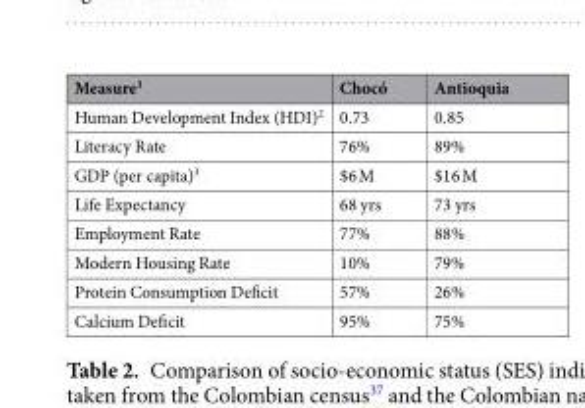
<table><thead><tr><td>Measure<sup>1</sup></td><td>Chocó</td><td>Antioquia</td></tr></thead><tbody><tr><td>Human Development Index (HDI)<sup>2</sup></td><td>0.73</td><td>0.85</td></tr><tr><td>Literacy Rate</td><td>76%</td><td>89%</td></tr><tr><td>GDP (per capita)<sup>3</sup></td><td>$6 M</td><td>$16 M</td></tr><tr><td>Life Expectancy</td><td>68 yrs</td><td>73 yrs</td></tr><tr><td>Employment Rate</td><td>77%</td><td>88%</td></tr><tr><td>Modern Housing Rate</td><td>10%</td><td>79%</td></tr><tr><td>Protein Consumption Deficit</td><td>57%</td><td>26%</td></tr><tr><td>Calcium Deficit</td><td>95%</td><td>75%</td></tr></tbody></table>